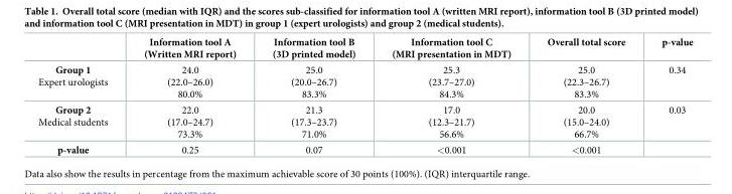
<table><thead><tr><td></td><td>Information tool A (Written MRI report)</td><td>Information tool B (3D printed model)</td><td>Information tool C (MRI presentation in MDT)</td><td>Overall total score</td><td>p-value</td></tr></thead><tbody><tr><td>Group 1 Expert urologists</td><td>24.0 (22.0–26.0) 80.0%</td><td>25.0 (20.0–26.7) 83.3%</td><td>25.3 (23.7–27.0) 84.3%</td><td>25.0 (22.3–26.7) 83.3%</td><td>0.34</td></tr><tr><td>Group 2 Medical students</td><td>22.0 (17.0–24.7) 73.3%</td><td>21.3 (17.3–23.7) 71.0%</td><td>17.0 (12.3–21.7) 56.6%</td><td>20.0 (15.0–24.0) 66.7%</td><td>0.03</td></tr><tr><td>p-value</td><td>0.25</td><td>0.07</td><td>&lt;0.001</td><td>&lt;0.001</td><td></td></tr></tbody></table>